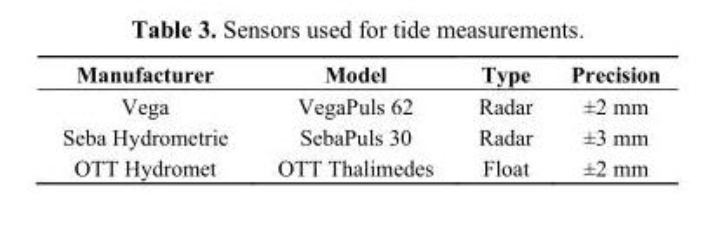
<table><thead><tr><td>Manufacturer</td><td>Model</td><td>Type</td><td>Precision</td></tr></thead><tbody><tr><td>Vega</td><td>VegaPuls 62</td><td>Radar</td><td>±2 mm</td></tr><tr><td>Seba Hydrometrie</td><td>SebaPuls 30</td><td>Radar</td><td>±3 mm</td></tr><tr><td>OTT Hydromet</td><td>OTT Thalimedes</td><td>Float</td><td>±2 mm</td></tr></tbody></table>